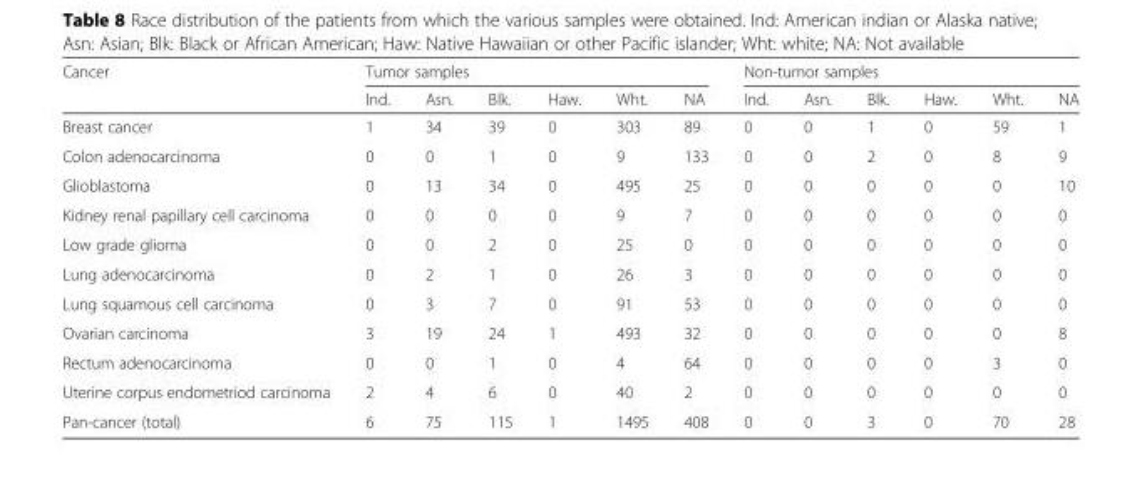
<table><thead><tr><td rowspan="2">Cancer</td><td colspan="6">Tumor samples</td><td colspan="6">Non-tumor samples</td></tr><tr><td>Ind.</td><td>Asn.</td><td>Blk.</td><td>Haw.</td><td>Wht.</td><td>NA</td><td>Ind.</td><td>Asn.</td><td>Blk.</td><td>Haw.</td><td>Wht.</td><td>NA</td></tr></thead><tbody><tr><td>Breast cancer</td><td>1</td><td>34</td><td>39</td><td>0</td><td>303</td><td>89</td><td>0</td><td>0</td><td>1</td><td>0</td><td>59</td><td>1</td></tr><tr><td>Colon adenocarcinoma</td><td>0</td><td>0</td><td>1</td><td>0</td><td>9</td><td>133</td><td>0</td><td>0</td><td>2</td><td>0</td><td>8</td><td>9</td></tr><tr><td>Glioblastoma</td><td>0</td><td>13</td><td>34</td><td>0</td><td>495</td><td>25</td><td>0</td><td>0</td><td>0</td><td>0</td><td>0</td><td>10</td></tr><tr><td>Kidney renal papillary cell carcinoma</td><td>0</td><td>0</td><td>0</td><td>0</td><td>9</td><td>7</td><td>0</td><td>0</td><td>0</td><td>0</td><td>0</td><td>0</td></tr><tr><td>Low grade glioma</td><td>0</td><td>0</td><td>2</td><td>0</td><td>25</td><td>0</td><td>0</td><td>0</td><td>0</td><td>0</td><td>0</td><td>0</td></tr><tr><td>Lung adenocarcinoma</td><td>0</td><td>2</td><td>1</td><td>0</td><td>26</td><td>3</td><td>0</td><td>0</td><td>0</td><td>0</td><td>0</td><td>0</td></tr><tr><td>Lung squamous cell carcinoma</td><td>0</td><td>3</td><td>7</td><td>0</td><td>91</td><td>53</td><td>0</td><td>0</td><td>0</td><td>0</td><td>0</td><td>0</td></tr><tr><td>Ovarian carcinoma</td><td>3</td><td>19</td><td>24</td><td>1</td><td>493</td><td>32</td><td>0</td><td>0</td><td>0</td><td>0</td><td>0</td><td>8</td></tr><tr><td>Rectum adenocarcinoma</td><td>0</td><td>0</td><td>1</td><td>0</td><td>4</td><td>64</td><td>0</td><td>0</td><td>0</td><td>0</td><td>3</td><td>0</td></tr><tr><td>Uterine corpus endometriod carcinoma</td><td>2</td><td>4</td><td>6</td><td>0</td><td>40</td><td>2</td><td>0</td><td>0</td><td>0</td><td>0</td><td>0</td><td>0</td></tr><tr><td>Pan-cancer (total)</td><td>6</td><td>75</td><td>115</td><td>1</td><td>1495</td><td>408</td><td>0</td><td>0</td><td>3</td><td>0</td><td>70</td><td>28</td></tr></tbody></table>